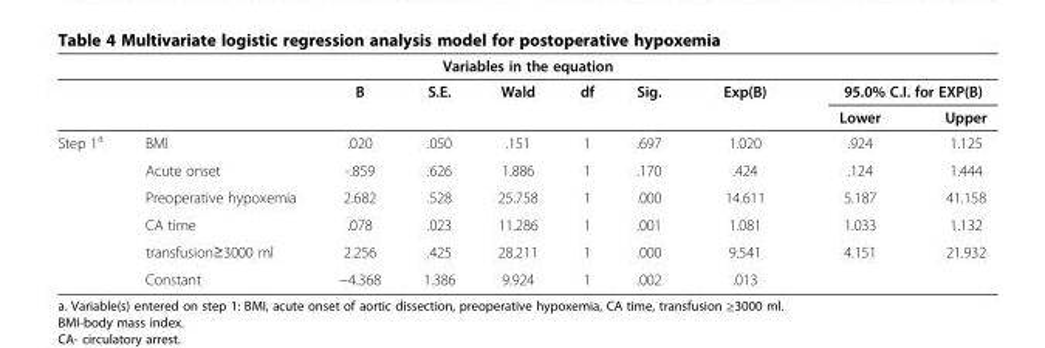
<table><thead><tr><td colspan="10">Variables in the equation</td></tr><tr><td rowspan="2"></td><td rowspan="2"></td><td rowspan="2">B</td><td rowspan="2">S.E.</td><td rowspan="2">Wald</td><td rowspan="2">df</td><td rowspan="2">Sig.</td><td rowspan="2">Exp(B)</td><td colspan="2">95.0% C.I. for EXP(B)</td></tr><tr><td>Lower</td><td>Upper</td></tr></thead><tbody><tr><td rowspan="6">Step 1<sup>a</sup></td><td>BMI</td><td>.020</td><td>.050</td><td>.151</td><td>1</td><td>.697</td><td>1.020</td><td>.924</td><td>1.125</td></tr><tr><td>Acute onset</td><td>-.859</td><td>.626</td><td>1.886</td><td>1</td><td>.170</td><td>.424</td><td>.124</td><td>1.444</td></tr><tr><td>Preoperative hypoxemia</td><td>2.682</td><td>.528</td><td>25.758</td><td>1</td><td>.000</td><td>14.611</td><td>5.187</td><td>41.158</td></tr><tr><td>CA time</td><td>.078</td><td>.023</td><td>11.286</td><td>1</td><td>.001</td><td>1.081</td><td>1.033</td><td>1.132</td></tr><tr><td>transfusion≥3000 ml</td><td>2.256</td><td>.425</td><td>28.211</td><td>1</td><td>.000</td><td>9.541</td><td>4.151</td><td>21.932</td></tr><tr><td>Constant</td><td>−4.368</td><td>1.386</td><td>9.924</td><td>1</td><td>.002</td><td>.013</td><td></td><td></td></tr></tbody></table>